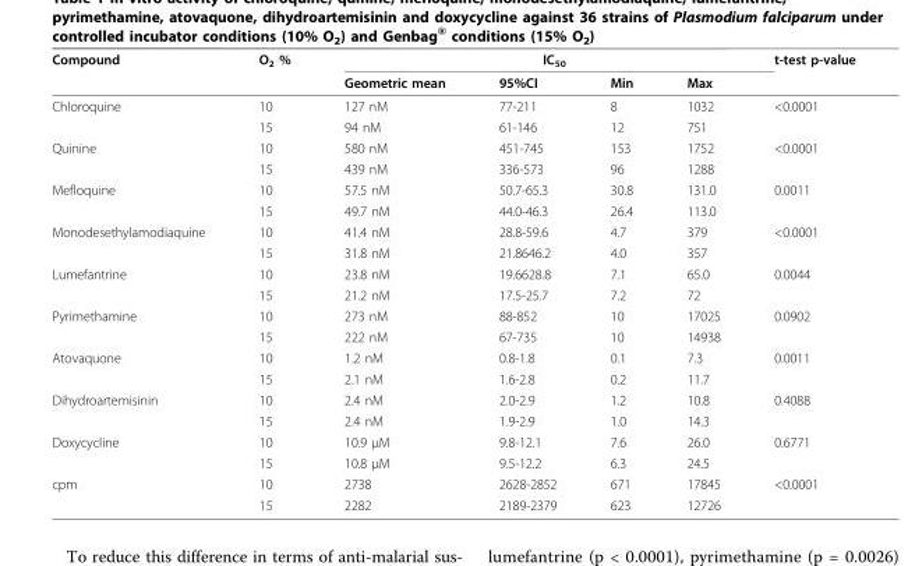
<table><thead><tr><td rowspan="2">Compound</td><td rowspan="2">O<sub>2</sub> %</td><td colspan="4">IC<sub>50</sub></td><td rowspan="2">t-test p-value</td></tr><tr><td>Geometric mean</td><td>95%CI</td><td>Min</td><td>Max</td></tr></thead><tbody><tr><td rowspan="2">Chloroquine</td><td>10</td><td>127 nM</td><td>77-211</td><td>8</td><td>1032</td><td>&lt;0.0001</td></tr><tr><td>15</td><td>94 nM</td><td>61-146</td><td>12</td><td>751</td><td></td></tr><tr><td rowspan="2">Quinine</td><td>10</td><td>580 nM</td><td>451-745</td><td>153</td><td>1752</td><td>&lt;0.0001</td></tr><tr><td>15</td><td>439 nM</td><td>336-573</td><td>96</td><td>1288</td><td></td></tr><tr><td rowspan="2">Mefloquine</td><td>10</td><td>57.5 nM</td><td>50.7-65.3</td><td>30.8</td><td>131.0</td><td>0.0011</td></tr><tr><td>15</td><td>49.7 nM</td><td>44.0-46.3</td><td>26.4</td><td>113.0</td><td></td></tr><tr><td rowspan="2">Monodesethylamodiaquine</td><td>10</td><td>41.4 nM</td><td>28.8-59.6</td><td>4.7</td><td>379</td><td>&lt;0.0001</td></tr><tr><td>15</td><td>31.8 nM</td><td>21.8646.2</td><td>4.0</td><td>357</td><td></td></tr><tr><td rowspan="2">Lumefantrine</td><td>10</td><td>23.8 nM</td><td>19.6628.8</td><td>7.1</td><td>65.0</td><td>0.0044</td></tr><tr><td>15</td><td>21.2 nM</td><td>17.5-25.7</td><td>7.2</td><td>72</td><td></td></tr><tr><td rowspan="2">Pyrimethamine</td><td>10</td><td>273 nM</td><td>88-852</td><td>10</td><td>17025</td><td>0.0902</td></tr><tr><td>15</td><td>222 nM</td><td>67-735</td><td>10</td><td>14938</td><td></td></tr><tr><td rowspan="2">Atovaquone</td><td>10</td><td>1.2 nM</td><td>0.8-1.8</td><td>0.1</td><td>7.3</td><td>0.0011</td></tr><tr><td>15</td><td>2.1 nM</td><td>1.6-2.8</td><td>0.2</td><td>11.7</td><td></td></tr><tr><td rowspan="2">Dihydroartemisinin</td><td>10</td><td>2.4 nM</td><td>2.0-2.9</td><td>1.2</td><td>10.8</td><td>0.4088</td></tr><tr><td>15</td><td>2.4 nM</td><td>1.9-2.9</td><td>1.0</td><td>14.3</td><td></td></tr><tr><td rowspan="2">Doxycycline</td><td>10</td><td>10.9 μM</td><td>9.8-12.1</td><td>7.6</td><td>26.0</td><td>0.6771</td></tr><tr><td>15</td><td>10.8 μM</td><td>9.5-12.2</td><td>6.3</td><td>24.5</td><td></td></tr><tr><td rowspan="2">cpm</td><td>10</td><td>2738</td><td>2628-2852</td><td>671</td><td>17845</td><td>&lt;0.0001</td></tr><tr><td>15</td><td>2282</td><td>2189-2379</td><td>623</td><td>12726</td><td></td></tr></tbody></table>